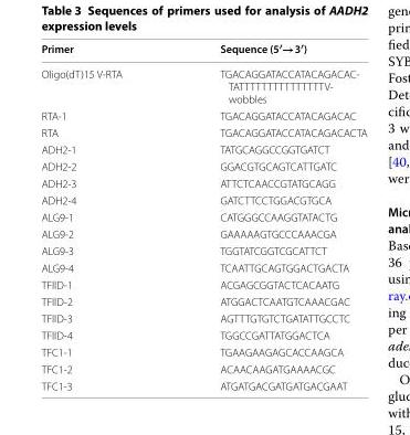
<table><thead><tr><td>Primer</td><td>Sequence (5′→3′)</td></tr></thead><tbody><tr><td>Oligo(dT)15 V-RTA</td><td>TGACAGGATACCATACAGACAC- TATTTTTTTTTTTTTTTV- wobbles</td></tr><tr><td>RTA-1</td><td>TGACAGGATACCATACAGACAC</td></tr><tr><td>RTA</td><td>TGACAGGATACCATACAGACACTA</td></tr><tr><td>ADH2-1</td><td>TATGCAGGCCGGTGATCT</td></tr><tr><td>ADH2-2</td><td>GGACGTGCAGTCATTGATC</td></tr><tr><td>ADH2-3</td><td>ATTCTCAACCGTATGCAGG</td></tr><tr><td>ADH2-4</td><td>GATCTTCCTGGACGTGCA</td></tr><tr><td>ALG9-1</td><td>CATGGGCCAAGGTATACTG</td></tr><tr><td>ALG9-2</td><td>GAAAAAGTGCCCAAACGA</td></tr><tr><td>ALG9-3</td><td>TGGTATCGGTCGCATTCT</td></tr><tr><td>ALG9-4</td><td>TCAATTGCAGTGGACTGACTA</td></tr><tr><td>TFllD-1</td><td>ACGAGCGGTACTCACAATG</td></tr><tr><td>TFllD-2</td><td>ATGGACTCAATGTCAAACGAC</td></tr><tr><td>TFllD-3</td><td>AGTTTGTGTCTGATATTGCCTC</td></tr><tr><td>TFllD-4</td><td>TGGCCGATTATGGACTCA</td></tr><tr><td>TFC1-1</td><td>TGAAGAAGAGCACCAAGCA</td></tr><tr><td>TFC1-2</td><td>ACAACAAGATGAAAACGC</td></tr><tr><td>TFC1-3</td><td>ATGATGACGATGATGACGAAT</td></tr></tbody></table>